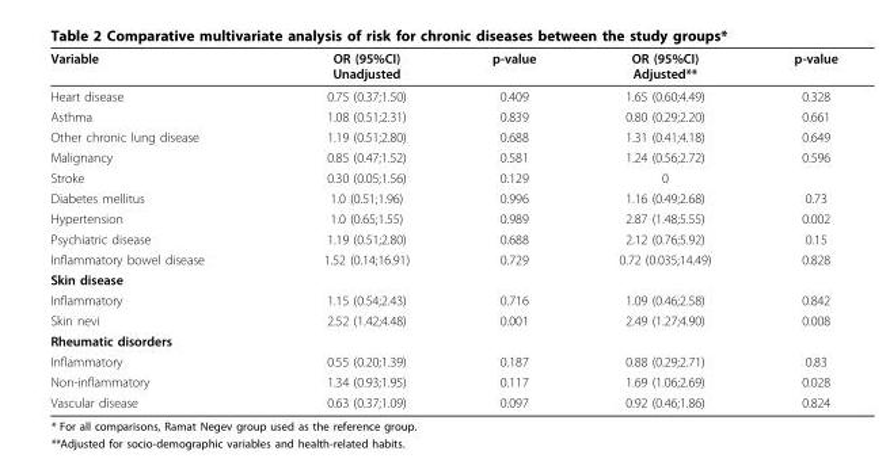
<table><thead><tr><td>Variable</td><td>OR (95%CI) Unadjusted</td><td>p-value</td><td>OR (95%CI) Adjusted**</td><td>p-value</td></tr></thead><tbody><tr><td>Heart disease</td><td>0.75 (0.37;1.50)</td><td>0.409</td><td>1.65 (0.60;4.49)</td><td>0.328</td></tr><tr><td>Asthma</td><td>1.08 (0.51;2.31)</td><td>0.839</td><td>0.80 (0.29;2.20)</td><td>0.661</td></tr><tr><td>Other chronic lung disease</td><td>1.19 (0.51;2.80)</td><td>0.688</td><td>1.31 (0.41;4.18)</td><td>0.649</td></tr><tr><td>Malignancy</td><td>0.85 (0.47;1.52)</td><td>0.581</td><td>1.24 (0.56;2.72)</td><td>0.596</td></tr><tr><td>Stroke</td><td>0.30 (0.05;1.56)</td><td>0.129</td><td>0</td><td></td></tr><tr><td>Diabetes mellitus</td><td>1.0 (0.51;1.96)</td><td>0.996</td><td>1.16 (0.49;2.68)</td><td>0.73</td></tr><tr><td>Hypertension</td><td>1.0 (0.65;1.55)</td><td>0.989</td><td>2.87 (1.48;5.55)</td><td>0.002</td></tr><tr><td>Psychiatric disease</td><td>1.19 (0.51;2.80)</td><td>0.688</td><td>2.12 (0.76;5.92)</td><td>0.15</td></tr><tr><td>Inflammatory bowel disease</td><td>1.52 (0.14;16.91)</td><td>0.729</td><td>0.72 (0.035;14.49)</td><td>0.828</td></tr><tr><td colspan="5">Skin disease</td></tr><tr><td>Inflammatory</td><td>1.15 (0.54;2.43)</td><td>0.716</td><td>1.09 (0.46;2.58)</td><td>0.842</td></tr><tr><td>Skin nevi</td><td>2.52 (1.42;4.48)</td><td>0.001</td><td>2.49 (1.27;4.90)</td><td>0.008</td></tr><tr><td colspan="5">Rheumatic disorders</td></tr><tr><td>Inflammatory</td><td>0.55 (0.20;1.39)</td><td>0.187</td><td>0.88 (0.29;2.71)</td><td>0.83</td></tr><tr><td>Non-inflammatory</td><td>1.34 (0.93;1.95)</td><td>0.117</td><td>1.69 (1.06;2.69)</td><td>0.028</td></tr><tr><td>Vascular disease</td><td>0.63 (0.37;1.09)</td><td>0.097</td><td>0.92 (0.46;1.86)</td><td>0.824</td></tr></tbody></table>